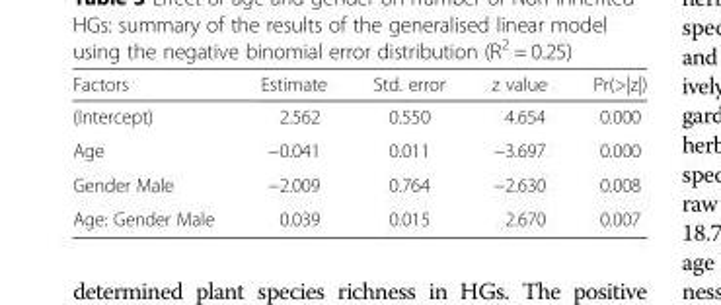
<table><thead><tr><td>Factors</td><td>Estimate</td><td>Std. error</td><td>z value</td><td>Pr(&gt;|z|)</td></tr></thead><tbody><tr><td>(Intercept)</td><td>2.562</td><td>0.550</td><td>4.654</td><td>0.000</td></tr><tr><td>Age</td><td>−0.041</td><td>0.011</td><td>−3.697</td><td>0.000</td></tr><tr><td>Gender Male</td><td>−2.009</td><td>0.764</td><td>−2.630</td><td>0.008</td></tr><tr><td>Age: Gender Male</td><td>0.039</td><td>0.015</td><td>2.670</td><td>0.007</td></tr></tbody></table>